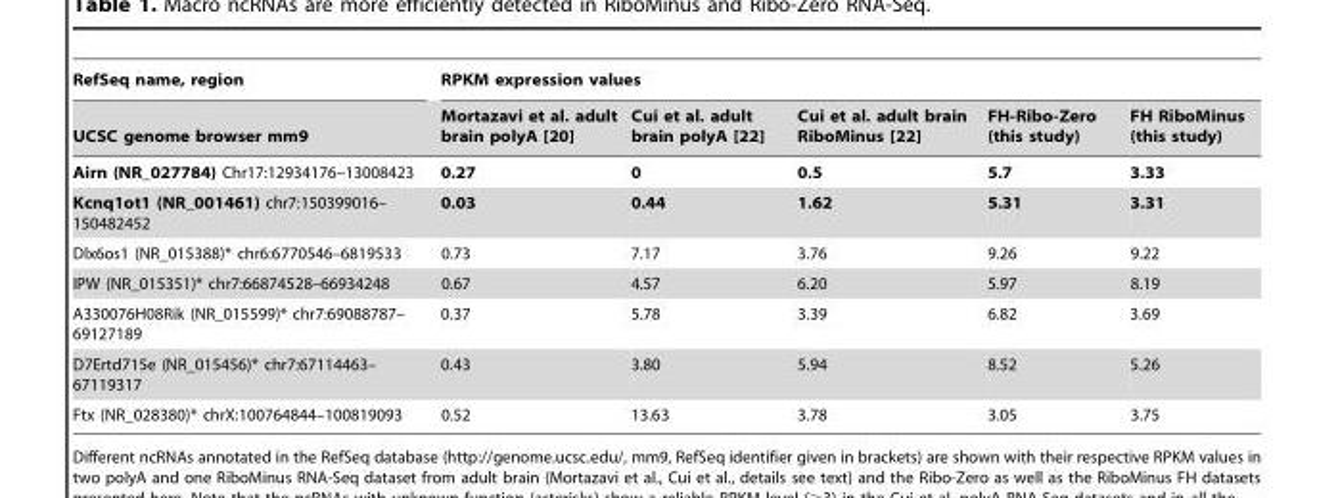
<table><thead><tr><td rowspan="2">RefSeq name, region UCSC genome browser mm9</td><td colspan="5">RPKM expression values</td></tr><tr><td>Mortazavi et al. adult brain polyA [20]</td><td>Cui et al. adult brain polyA [22]</td><td>Cui et al. adult brain RiboMinus [22]</td><td>FH-Ribo-Zero (this study)</td><td>FH RiboMinus (this study)</td></tr></thead><tbody><tr><td>Airn (NR_027784) Chr17:12934176–13008423</td><td>0.27</td><td>0</td><td>0.5</td><td>5.7</td><td>3.33</td></tr><tr><td>Kcnq1ot1 (NR_001461) chr7:150399016– 150482452</td><td>0.03</td><td>0.44</td><td>1.62</td><td>5.31</td><td>3.31</td></tr><tr><td>Dlx6os1 (NR_015388)* chr6:6770546–6819533</td><td>0.73</td><td>7.17</td><td>3.76</td><td>9.26</td><td>9.22</td></tr><tr><td>IPW (NR_015351)* chr7:66874528–66934248</td><td>0.67</td><td>4.57</td><td>6.20</td><td>5.97</td><td>8.19</td></tr><tr><td>A330076H08Rik (NR_015599)* chr7:69088787– 69127189</td><td>0.37</td><td>5.78</td><td>3.39</td><td>6.82</td><td>3.69</td></tr><tr><td>D7Ertd715e (NR_015456)* chr7:67114463– 67119317</td><td>0.43</td><td>3.80</td><td>5.94</td><td>8.52</td><td>5.26</td></tr><tr><td>Ftx (NR_028380)* chrX:100764844–100819093</td><td>0.52</td><td>13.63</td><td>3.78</td><td>3.05</td><td>3.75</td></tr></tbody></table>